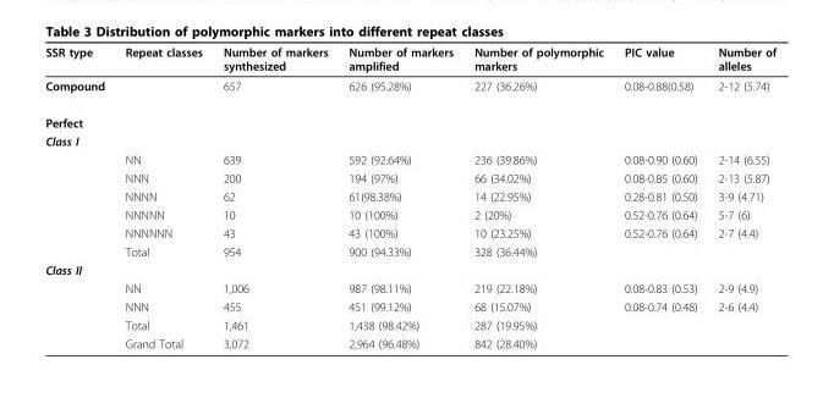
<table><thead><tr><td>SSR type</td><td>Repeat classes</td><td>Number of markers synthesized</td><td>Number of markers amplified</td><td>Number of polymorphic markers</td><td>PIC value</td><td>Number of alleles</td></tr></thead><tbody><tr><td>Compound</td><td></td><td>657</td><td>626 (95.28%)</td><td>227 (36.26%)</td><td>0.08-0.88(0.58)</td><td>2-12 (5.74)</td></tr><tr><td colspan="7">Perfect</td></tr><tr><td colspan="7">Class I</td></tr><tr><td></td><td>NN</td><td>639</td><td>592 (92.64%)</td><td>236 (39.86%)</td><td>0.08-0.90 (0.60)</td><td>2-14 (6.55)</td></tr><tr><td></td><td>NNN</td><td>200</td><td>194 (97%)</td><td>66 (34.02%)</td><td>0.08-0.85 (0.60)</td><td>2-13 (5.87)</td></tr><tr><td></td><td>NNNN</td><td>62</td><td>61(98.38%)</td><td>14 (22.95%)</td><td>0.28-0.81 (0.50)</td><td>3-9 (4.71)</td></tr><tr><td></td><td>NNNNN</td><td>10</td><td>10 (100%)</td><td>2 (20%)</td><td>0.52-0.76 (0.64)</td><td>5-7 (6)</td></tr><tr><td></td><td>NNNNNN</td><td>43</td><td>43 (100%)</td><td>10 (23.25%)</td><td>0.52-0.76 (0.64)</td><td>2-7 (4.4)</td></tr><tr><td></td><td>Total</td><td>954</td><td>900 (94.33%)</td><td>328 (36.44%)</td><td></td><td></td></tr><tr><td colspan="7">Class II</td></tr><tr><td></td><td>NN</td><td>1,006</td><td>987 (98.11%)</td><td>219 (22.18%)</td><td>0.08-0.83 (0.53)</td><td>2-9 (4.9)</td></tr><tr><td></td><td>NNN</td><td>455</td><td>451 (99.12%)</td><td>68 (15.07%)</td><td>0.08-0.74 (0.48)</td><td>2-6 (4.4)</td></tr><tr><td></td><td>Total</td><td>1,461</td><td>1,438 (98.42%)</td><td>287 (19.95%)</td><td></td><td></td></tr><tr><td></td><td>Grand Total</td><td>3,072</td><td>2,964 (96.48%)</td><td>842 (28.40%)</td><td></td><td></td></tr></tbody></table>